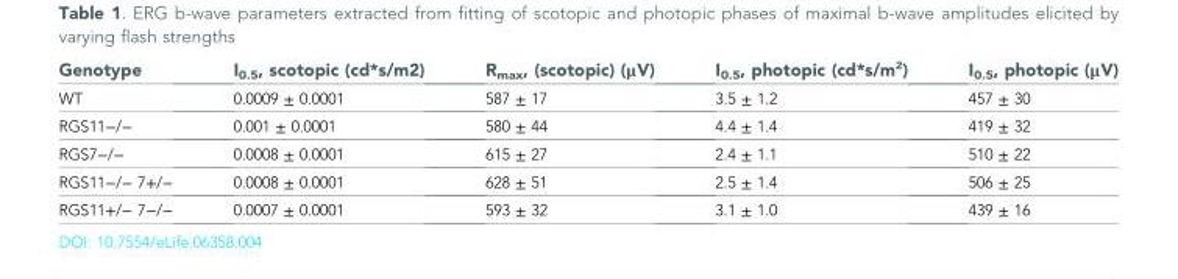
<table><thead><tr><td>Genotype</td><td>I<sub>0.5</sub>, scotopic (cd*s/m2)</td><td>R<sub>max</sub>, (scotopic) (μV)</td><td>I<sub>0.5</sub>, photopic (cd*s/m<sup>2</sup>)</td><td>I<sub>0.5</sub>, photopic (μV)</td></tr></thead><tbody><tr><td>WT</td><td>0.0009 ± 0.0001</td><td>587 ± 17</td><td>3.5 ± 1.2</td><td>457 ± 30</td></tr><tr><td>RGS11−/−</td><td>0.001 ± 0.0001</td><td>580 ± 44</td><td>4.4 ± 1.4</td><td>419 ± 32</td></tr><tr><td>RGS7−/−</td><td>0.0008 ± 0.0001</td><td>615 ± 27</td><td>2.4 ± 1.1</td><td>510 ± 22</td></tr><tr><td>RGS11−/− 7+/−</td><td>0.0008 ± 0.0001</td><td>628 ± 51</td><td>2.5 ± 1.4</td><td>506 ± 25</td></tr><tr><td>RGS11+/− 7−/−</td><td>0.0007 ± 0.0001</td><td>593 ± 32</td><td>3.1 ± 1.0</td><td>439 ± 16</td></tr></tbody></table>